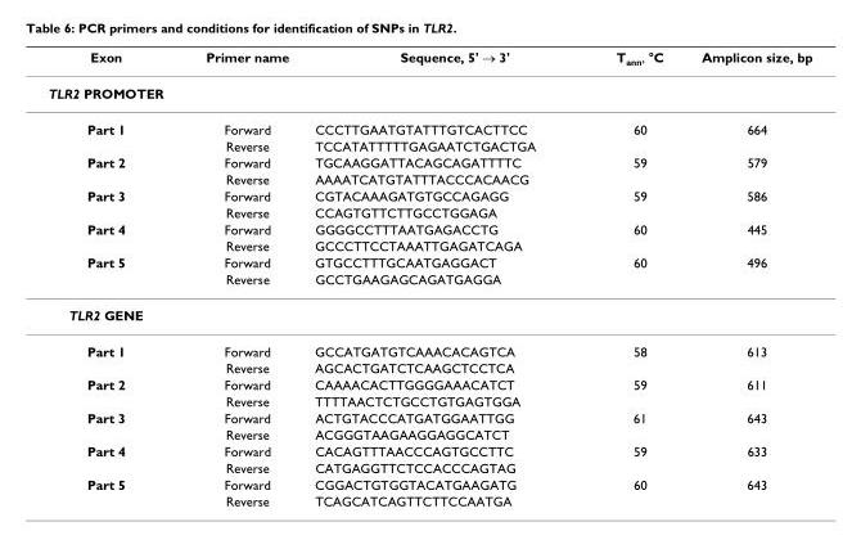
<table><thead><tr><td>Exon</td><td>Primer name</td><td>Sequence, 5&#x27; → 3&#x27;</td><td>T<sub>ann</sub>, °C</td><td>Amplicon size, bp</td></tr></thead><tbody><tr><td colspan="5">TLR2 PROMOTER</td></tr><tr><td rowspan="2">Part 1</td><td>Forward</td><td>CCCTTGAATGTATTTGTCACTTCC</td><td>60</td><td>664</td></tr><tr><td>Reverse</td><td>TCCATATTTTTGAGAATCTGACTGA</td><td></td><td></td></tr><tr><td rowspan="2">Part 2</td><td>Forward</td><td>TGCAAGGATTACAGCAGATTTTC</td><td>59</td><td>579</td></tr><tr><td>Reverse</td><td>AAAATCATGTATTTACCCACAACG</td><td></td><td></td></tr><tr><td rowspan="2">Part 3</td><td>Forward</td><td>CGTACAAAGATGTGCCAGAGG</td><td>59</td><td>586</td></tr><tr><td>Reverse</td><td>CCAGTGTTCTTGCCTGGAGA</td><td></td><td></td></tr><tr><td rowspan="2">Part 4</td><td>Forward</td><td>GGGGCCTTTAATGAGACCTG</td><td>60</td><td>445</td></tr><tr><td>Reverse</td><td>GCCCTTCCTAAATTGAGATCAGA</td><td></td><td></td></tr><tr><td rowspan="2">Part 5</td><td>Forward</td><td>GTGCCTTTGCAATGAGGACT</td><td>60</td><td>496</td></tr><tr><td>Reverse</td><td>GCCTGAAGAGCAGATGAGGA</td><td></td><td></td></tr><tr><td colspan="5">TLR2 GENE</td></tr><tr><td rowspan="2">Part 1</td><td>Forward</td><td>GCCATGATGTCAAACACAGTCA</td><td>58</td><td>613</td></tr><tr><td>Reverse</td><td>AGCACTGATCTCAAGCTCCTCA</td><td></td><td></td></tr><tr><td rowspan="2">Part 2</td><td>Forward</td><td>CAAAACACTTGGGGAAACATCT</td><td>59</td><td>611</td></tr><tr><td>Reverse</td><td>TTTTAACTCTGCCTGTGAGTGGA</td><td></td><td></td></tr><tr><td rowspan="2">Part 3</td><td>Forward</td><td>ACTGTACCCATGATGGAATTGG</td><td>61</td><td>643</td></tr><tr><td>Reverse</td><td>ACGGGTAAGAAGGAGGCATCT</td><td></td><td></td></tr><tr><td rowspan="2">Part 4</td><td>Forward</td><td>CACAGTTTAACCCAGTGCCTTC</td><td>59</td><td>633</td></tr><tr><td>Reverse</td><td>CATGAGGTTCTCCACCCAGTAG</td><td></td><td></td></tr><tr><td rowspan="2">Part 5</td><td>Forward</td><td>CGGACTGTGGTACATGAAGATG</td><td>60</td><td>643</td></tr><tr><td>Reverse</td><td>TCAGCATCAGTTCTTCCAATGA</td><td></td><td></td></tr></tbody></table>